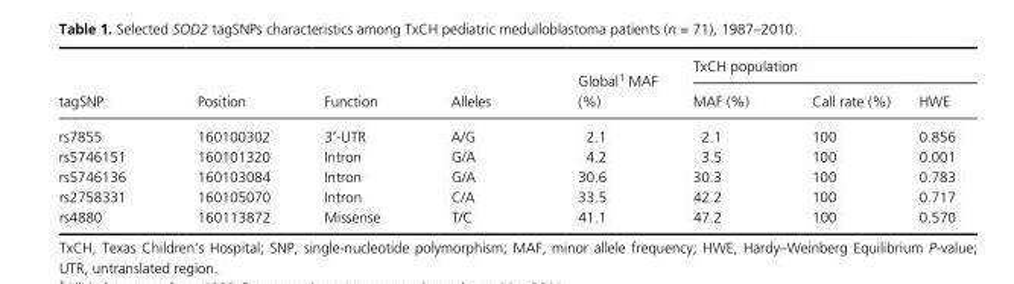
<table><thead><tr><td rowspan="2">tagSNP</td><td rowspan="2">Position</td><td rowspan="2">Function</td><td rowspan="2">Alleles</td><td rowspan="2">Global<sup>1</sup> MAF (%)</td><td colspan="3">TxCH population</td></tr><tr><td>MAF (%)</td><td>Call rate (%)</td><td>HWE</td></tr></thead><tbody><tr><td>rs7855</td><td>160100302</td><td>3′- UTR</td><td>A/G</td><td>2.1</td><td>2.1</td><td>100</td><td>0.856</td></tr><tr><td>rs5746151</td><td>160101320</td><td>Intron</td><td>G/A</td><td>4.2</td><td>3.5</td><td>100</td><td>0.001</td></tr><tr><td>rs5746136</td><td>160103084</td><td>Intron</td><td>G/A</td><td>30.6</td><td>30.3</td><td>100</td><td>0.783</td></tr><tr><td>rs2758331</td><td>160105070</td><td>Intron</td><td>C/A</td><td>33.5</td><td>42.2</td><td>100</td><td>0.717</td></tr><tr><td>rs4880</td><td>160113872</td><td>Missense</td><td>T/C</td><td>41.1</td><td>47.2</td><td>100</td><td>0.570</td></tr></tbody></table>